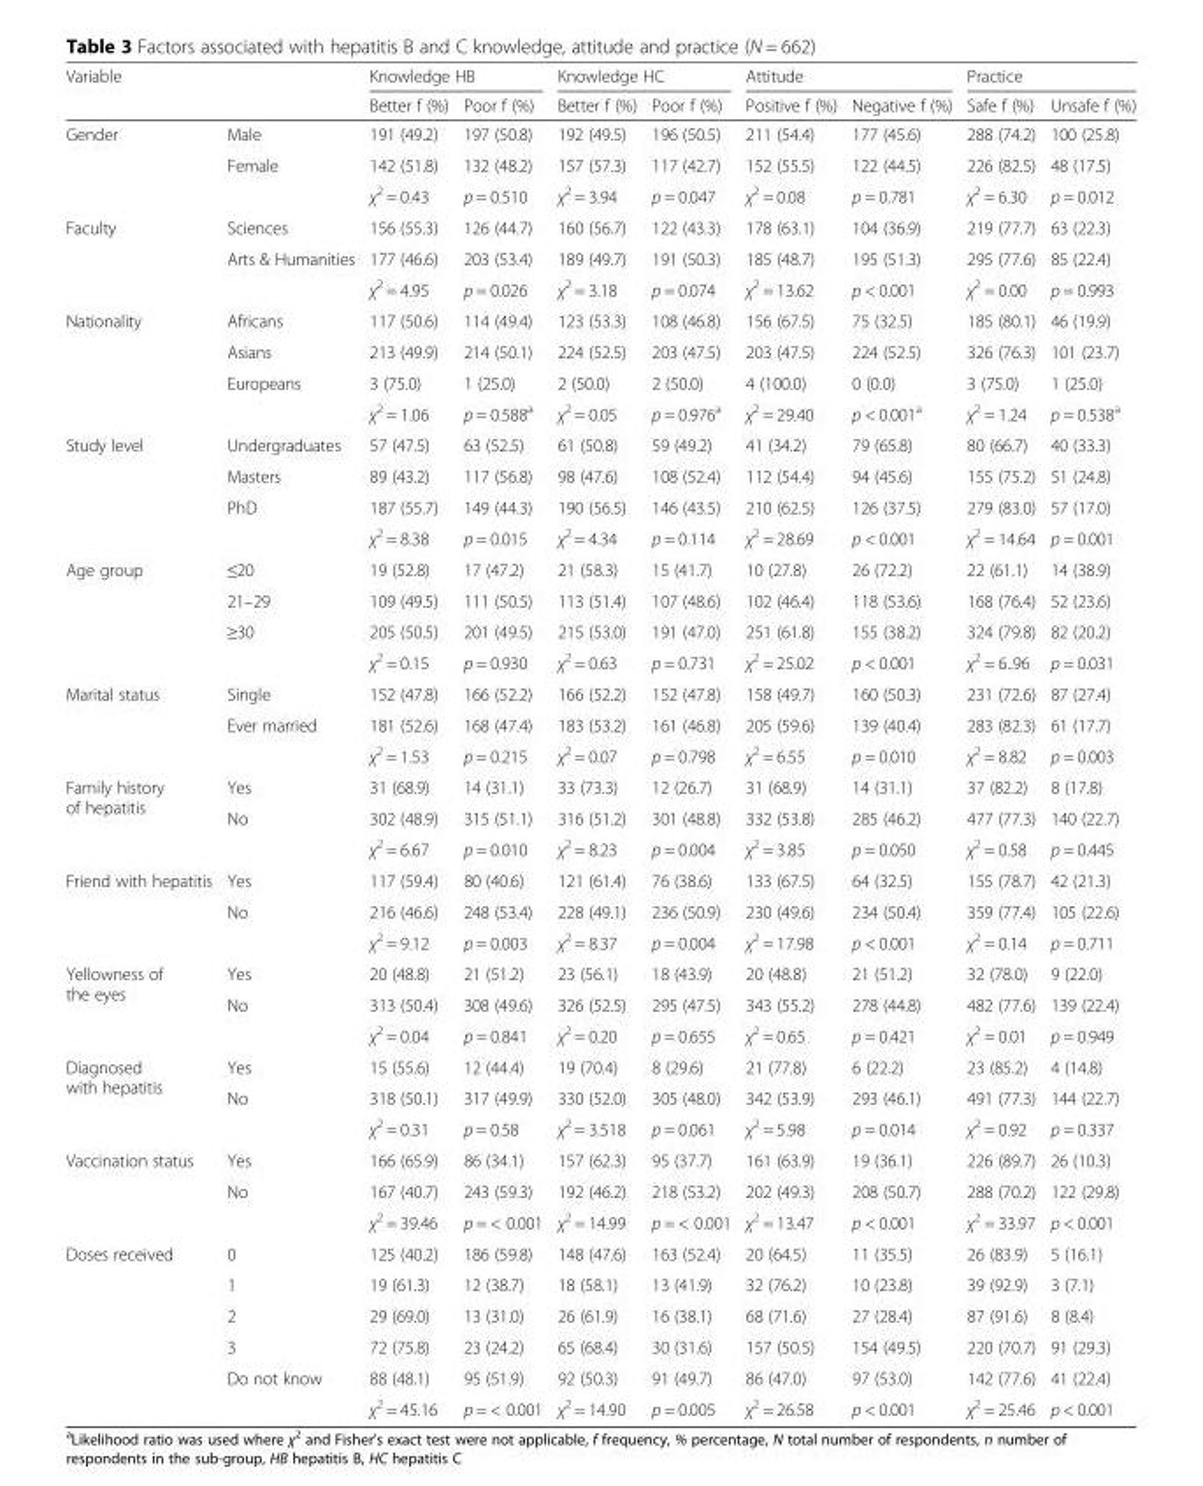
<table><thead><tr><td rowspan="2">Variable</td><td rowspan="2"></td><td colspan="2">Knowledge HB</td><td colspan="2">Knowledge HC</td><td colspan="2">Attitude</td><td colspan="2">Practice</td></tr><tr><td>Better f (%)</td><td>Poor f (%)</td><td>Better f (%)</td><td>Poor f (%)</td><td>Positive f (%)</td><td>Negative f (%)</td><td>Safe f (%)</td><td>Unsafe f (%)</td></tr></thead><tbody><tr><td rowspan="3">Gender</td><td>Male</td><td>191 (49.2)</td><td>197 (50.8)</td><td>192 (49.5)</td><td>196 (50.5)</td><td>211 (54.4)</td><td>177 (45.6)</td><td>288 (74.2)</td><td>100 (25.8)</td></tr><tr><td rowspan="2">Female</td><td>142 (51.8)</td><td>132 (48.2)</td><td>157 (57.3)</td><td>117 (42.7)</td><td>152 (55.5)</td><td>122 (44.5)</td><td>226 (82.5)</td><td>48 (17.5)</td></tr><tr><td>χ<sup>2</sup> = 0.43</td><td>p = 0.510</td><td>χ<sup>2</sup> = 3.94</td><td>p = 0.047</td><td>χ<sup>2</sup> = 0.08</td><td>p = 0.781</td><td>χ<sup>2</sup> = 6.30</td><td>p = 0.012</td></tr><tr><td rowspan="3">Faculty</td><td>Sciences</td><td>156 (55.3)</td><td>126 (44.7)</td><td>160 (56.7)</td><td>122 (43.3)</td><td>178 (63.1)</td><td>104 (36.9)</td><td>219 (77.7)</td><td>63 (22.3)</td></tr><tr><td rowspan="2">Arts &amp; Humanities</td><td>177 (46.6)</td><td>203 (53.4)</td><td>189 (49.7)</td><td>191 (50.3)</td><td>185 (48.7)</td><td>195 (51.3)</td><td>295 (77.6)</td><td>85 (22.4)</td></tr><tr><td>χ<sup>2</sup> = 4.95</td><td>p = 0.026</td><td>χ<sup>2</sup> = 3.18</td><td>p = 0.074</td><td>χ<sup>2</sup> = 13.62</td><td>p &lt; 0.001</td><td>χ<sup>2</sup> = 0.00</td><td>p = 0.993</td></tr><tr><td rowspan="4">Nationality</td><td>Africans</td><td>117 (50.6)</td><td>114 (49.4)</td><td>123 (53.3)</td><td>108 (46.8)</td><td>156 (67.5)</td><td>75 (32.5)</td><td>185 (80.1)</td><td>46 (19.9)</td></tr><tr><td>Asians</td><td>213 (49.9)</td><td>214 (50.1)</td><td>224 (52.5)</td><td>203 (47.5)</td><td>203 (47.5)</td><td>224 (52.5)</td><td>326 (76.3)</td><td>101 (23.7)</td></tr><tr><td rowspan="2">Europeans</td><td>3 (75.0)</td><td>1 (25.0)</td><td>2 (50.0)</td><td>2 (50.0)</td><td>4 (100.0)</td><td>0 (0.0)</td><td>3 (75.0)</td><td>1 (25.0)</td></tr><tr><td>χ<sup>2</sup> = 1.06</td><td>p = 0.588<sup>a</sup></td><td>χ<sup>2</sup> = 0.05</td><td>p = 0.976<sup>a</sup></td><td>χ<sup>2</sup> = 29.40</td><td>p &lt; 0.001<sup>a</sup></td><td>χ<sup>2</sup> = 1.24</td><td>p = 0.538<sup>a</sup></td></tr><tr><td rowspan="4">Study level</td><td>Undergraduates</td><td>57 (47.5)</td><td>63 (52.5)</td><td>61 (50.8)</td><td>59 (49.2)</td><td>41 (34.2)</td><td>79 (65.8)</td><td>80 (66.7)</td><td>40 (33.3)</td></tr><tr><td>Masters</td><td>89 (43.2)</td><td>117 (56.8)</td><td>98 (47.6)</td><td>108 (52.4)</td><td>112 (54.4)</td><td>94 (45.6)</td><td>155 (75.2)</td><td>51 (24.8)</td></tr><tr><td rowspan="2">PhD</td><td>187 (55.7)</td><td>149 (44.3)</td><td>190 (56.5)</td><td>146 (43.5)</td><td>210 (62.5)</td><td>126 (37.5)</td><td>279 (83.0)</td><td>57 (17.0)</td></tr><tr><td>χ<sup>2</sup> = 8.38</td><td>p = 0.015</td><td>χ<sup>2</sup> = 4.34</td><td>p = 0.114</td><td>χ<sup>2</sup> = 28.69</td><td>p &lt; 0.001</td><td>χ<sup>2</sup> = 14.64</td><td>p = 0.001</td></tr><tr><td rowspan="4">Age group</td><td>≤20</td><td>19 (52.8)</td><td>17 (47.2)</td><td>21 (58.3)</td><td>15 (41.7)</td><td>10 (27.8)</td><td>26 (72.2)</td><td>22 (61.1)</td><td>14 (38.9)</td></tr><tr><td>21–29</td><td>109 (49.5)</td><td>111 (50.5)</td><td>113 (51.4)</td><td>107 (48.6)</td><td>102 (46.4)</td><td>118 (53.6)</td><td>168 (76.4)</td><td>52 (23.6)</td></tr><tr><td rowspan="2">≥30</td><td>205 (50.5)</td><td>201 (49.5)</td><td>215 (53.0)</td><td>191 (47.0)</td><td>251 (61.8)</td><td>155 (38.2)</td><td>324 (79.8)</td><td>82 (20.2)</td></tr><tr><td>χ<sup>2</sup> = 0.15</td><td>p = 0.930</td><td>χ<sup>2</sup> = 0.63</td><td>p = 0.731</td><td>χ<sup>2</sup> = 25.02</td><td>p &lt; 0.001</td><td>χ<sup>2</sup> = 6..96</td><td>p = 0.031</td></tr><tr><td rowspan="3">Marital status</td><td>Single</td><td>152 (47.8)</td><td>166 (52.2)</td><td>166 (52.2)</td><td>152 (47.8)</td><td>158 (49.7)</td><td>160 (50.3)</td><td>231 (72.6)</td><td>87 (27.4)</td></tr><tr><td rowspan="2">Ever married</td><td>181 (52.6)</td><td>168 (47.4)</td><td>183 (53.2)</td><td>161 (46.8)</td><td>205 (59.6)</td><td>139 (40.4)</td><td>283 (82.3)</td><td>61 (17.7)</td></tr><tr><td>χ<sup>2</sup> = 1.53</td><td>p = 0.215</td><td>χ<sup>2</sup> = 0.07</td><td>p = 0.798</td><td>χ<sup>2</sup> = 6.55</td><td>p = 0.010</td><td>χ<sup>2</sup> = 8.82</td><td>p = 0.003</td></tr><tr><td rowspan="3">Family history of hepatitis</td><td>Yes</td><td>31 (68.9)</td><td>14 (31.1)</td><td>33 (73.3)</td><td>12 (26.7)</td><td>31 (68.9)</td><td>14 (31.1)</td><td>37 (82.2)</td><td>8 (17.8)</td></tr><tr><td rowspan="2">No</td><td>302 (48.9)</td><td>315 (51.1)</td><td>316 (51.2)</td><td>301 (48.8)</td><td>332 (53.8)</td><td>285 (46.2)</td><td>477 (77.3)</td><td>140 (22.7)</td></tr><tr><td>χ<sup>2</sup> = 6.67</td><td>p = 0.010</td><td>χ<sup>2</sup> = 8.23</td><td>p = 0.004</td><td>χ<sup>2</sup> = 3.85</td><td>p = 0.050</td><td>χ<sup>2</sup> = 0.58</td><td>p = 0.445</td></tr><tr><td rowspan="3">Friend with hepatitis</td><td>Yes</td><td>117 (59.4)</td><td>80 (40.6)</td><td>121 (61.4)</td><td>76 (38.6)</td><td>133 (67.5)</td><td>64 (32.5)</td><td>155 (78.7)</td><td>42 (21.3)</td></tr><tr><td rowspan="2">No</td><td>216 (46.6)</td><td>248 (53.4)</td><td>228 (49.1)</td><td>236 (50.9)</td><td>230 (49.6)</td><td>234 (50.4)</td><td>359 (77.4)</td><td>105 (22.6)</td></tr><tr><td>χ<sup>2</sup> = 9.12</td><td>p = 0.003</td><td>χ<sup>2</sup> = 8.37</td><td>p = 0.004</td><td>χ<sup>2</sup> = 17.98</td><td>p &lt; 0.001</td><td>χ<sup>2</sup> = 0.14</td><td>p = 0.711</td></tr><tr><td rowspan="3">Yellowness of the eyes</td><td>Yes</td><td>20 (48.8)</td><td>21 (51.2)</td><td>23 (56.1)</td><td>18 (43.9)</td><td>20 (48.8)</td><td>21 (51.2)</td><td>32 (78.0)</td><td>9 (22.0)</td></tr><tr><td rowspan="2">No</td><td>313 (50.4)</td><td>308 (49.6)</td><td>326 (52.5)</td><td>295 (47.5)</td><td>343 (55.2)</td><td>278 (44.8)</td><td>482 (77.6)</td><td>139 (22.4)</td></tr><tr><td>χ<sup>2</sup> = 0.04</td><td>p = 0.841</td><td>χ<sup>2</sup> = 0.20</td><td>p = 0.655</td><td>χ<sup>2</sup> = 0.65</td><td>p = 0.421</td><td>χ<sup>2</sup> = 0.01</td><td>p = 0.949</td></tr><tr><td rowspan="3">Diagnosed with hepatitis</td><td>Yes</td><td>15 (55.6)</td><td>12 (44.4)</td><td>19 (70.4)</td><td>8 (29.6)</td><td>21 (77.8)</td><td>6 (22.2)</td><td>23 (85.2)</td><td>4 (14.8)</td></tr><tr><td rowspan="2">No</td><td>318 (50.1)</td><td>317 (49.9)</td><td>330 (52.0)</td><td>305 (48.0)</td><td>342 (53.9)</td><td>293 (46.1)</td><td>491 (77.3)</td><td>144 (22.7)</td></tr><tr><td>χ<sup>2</sup> = 0.31</td><td>p = 0.58</td><td>χ<sup>2</sup> = 3.518</td><td>p = 0.061</td><td>χ<sup>2</sup> = 5.98</td><td>p = 0.014</td><td>χ<sup>2</sup> = 0.92</td><td>p = 0.337</td></tr><tr><td rowspan="3">Vaccination status</td><td>Yes</td><td>166 (65.9)</td><td>86 (34.1)</td><td>157 (62.3)</td><td>95 (37.7)</td><td>161 (63.9)</td><td>19 (36.1)</td><td>226 (89.7)</td><td>26 (10.3)</td></tr><tr><td rowspan="2">No</td><td>167 (40.7)</td><td>243 (59.3)</td><td>192 (46.2)</td><td>218 (53.2)</td><td>202 (49.3)</td><td>208 (50.7)</td><td>288 (70.2)</td><td>122 (29.8)</td></tr><tr><td>χ<sup>2</sup> = 39.46</td><td>p = &lt; 0.001</td><td>χ<sup>2</sup> = 14.99</td><td>p = &lt; 0.001</td><td>χ<sup>2</sup> = 13.47</td><td>p &lt; 0.001</td><td>χ<sup>2</sup> = 33.97</td><td>p &lt; 0.001</td></tr><tr><td rowspan="6">Doses received</td><td>0</td><td>125 (40.2)</td><td>186 (59.8)</td><td>148 (47.6)</td><td>163 (52.4)</td><td>20 (64.5)</td><td>11 (35.5)</td><td>26 (83.9)</td><td>5 (16.1)</td></tr><tr><td>1</td><td>19 (61.3)</td><td>12 (38.7)</td><td>18 (58.1)</td><td>13 (41.9)</td><td>32 (76.2)</td><td>10 (23.8)</td><td>39 (92.9)</td><td>3 (7.1)</td></tr><tr><td>2</td><td>29 (69.0)</td><td>13 (31.0)</td><td>26 (61.9)</td><td>16 (38.1)</td><td>68 (71.6)</td><td>27 (28.4)</td><td>87 (91.6)</td><td>8 (8.4)</td></tr><tr><td>3</td><td>72 (75.8)</td><td>23 (24.2)</td><td>65 (68.4)</td><td>30 (31.6)</td><td>157 (50.5)</td><td>154 (49.5)</td><td>220 (70.7)</td><td>91 (29.3)</td></tr><tr><td rowspan="2">Do not know</td><td>88 (48.1)</td><td>95 (51.9)</td><td>92 (50.3)</td><td>91 (49.7)</td><td>86 (47.0)</td><td>97 (53.0)</td><td>142 (77.6)</td><td>41 (22.4)</td></tr><tr><td>χ<sup>2</sup> = 45.16</td><td>p = &lt; 0.001</td><td>χ<sup>2</sup> = 14.90</td><td>p = 0.005</td><td>χ<sup>2</sup> = 26.58</td><td>p &lt; 0.001</td><td>χ<sup>2</sup> = 25.46</td><td>p &lt; 0.001</td></tr></tbody></table>